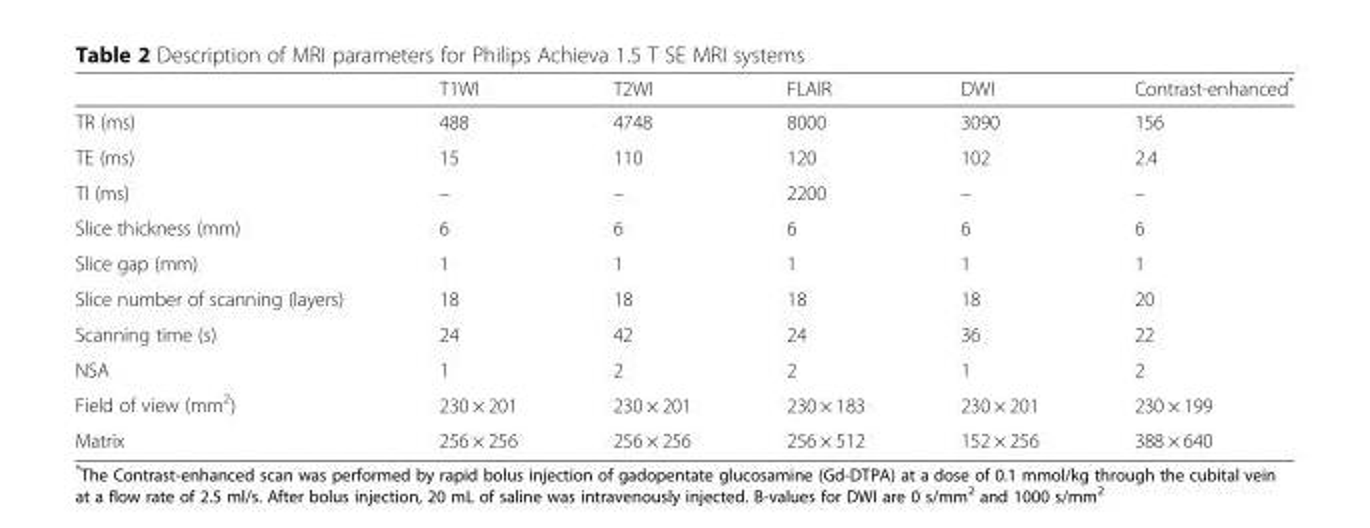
<table><thead><tr><td></td><td>T1WI</td><td>T2WI</td><td>FLAIR</td><td>DWI</td><td>Contrast-enhanced*</td></tr></thead><tbody><tr><td>TR (ms)</td><td>488</td><td>4748</td><td>8000</td><td>3090</td><td>156</td></tr><tr><td>TE (ms)</td><td>15</td><td>110</td><td>120</td><td>102</td><td>2.4</td></tr><tr><td>TI (ms)</td><td>–</td><td>–</td><td>2200</td><td>–</td><td>–</td></tr><tr><td>Slice thickness (mm)</td><td>6</td><td>6</td><td>6</td><td>6</td><td>6</td></tr><tr><td>Slice gap (mm)</td><td>1</td><td>1</td><td>1</td><td>1</td><td>1</td></tr><tr><td>Slice number of scanning (layers)</td><td>18</td><td>18</td><td>18</td><td>18</td><td>20</td></tr><tr><td>Scanning time (s)</td><td>24</td><td>42</td><td>24</td><td>36</td><td>22</td></tr><tr><td>NSA</td><td>1</td><td>2</td><td>2</td><td>1</td><td>2</td></tr><tr><td>Field of view (mm<sup>2</sup>)</td><td>230 × 201</td><td>230 × 201</td><td>230 × 183</td><td>230 × 201</td><td>230 × 199</td></tr><tr><td>Matrix</td><td>256 × 256</td><td>256 × 256</td><td>256 × 512</td><td>152 × 256</td><td>388 × 640</td></tr></tbody></table>